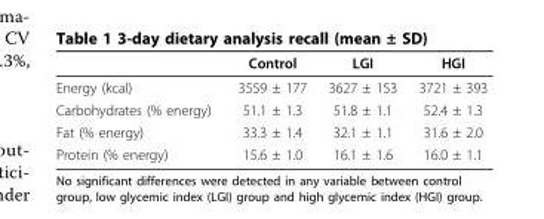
<table><thead><tr><td></td><td>Control</td><td>LGI</td><td>HGI</td></tr></thead><tbody><tr><td>Energy (kcal)</td><td>3559 ± 177</td><td>3627 ± 153</td><td>3721 ± 393</td></tr><tr><td>Carbohydrates (% energy)</td><td>51.1 ± 1.3</td><td>51.8 ± 1.1</td><td>52.4 ± 1.3</td></tr><tr><td>Fat (% energy)</td><td>33.3 ± 1.4</td><td>32.1 ± 1.1</td><td>31.6 ± 2.0</td></tr><tr><td>Protein (% energy)</td><td>15.6 ± 1.0</td><td>16.1 ± 1.6</td><td>16.0 ± 1.1</td></tr></tbody></table>